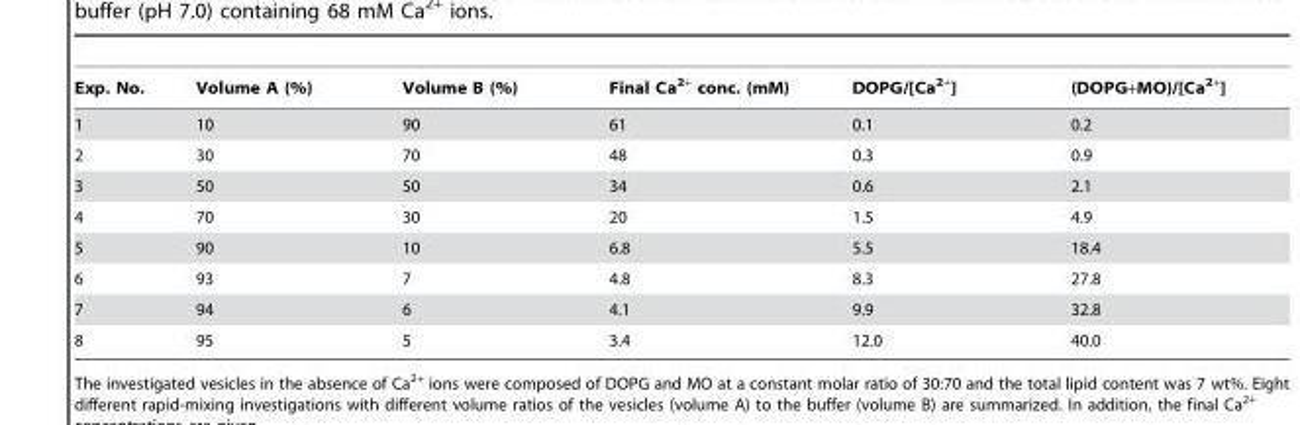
<table><thead><tr><td>Exp. No.</td><td>Volume A (%)</td><td>Volume B (%)</td><td>Final Ca<sup>2+</sup> conc. (mM)</td><td>DOPG/[Ca<sup>2+</sup>]</td><td>(DOPG+MO)/[Ca<sup>2+</sup>]</td></tr></thead><tbody><tr><td>1</td><td>10</td><td>90</td><td>61</td><td>0.1</td><td>0.2</td></tr><tr><td>2</td><td>30</td><td>70</td><td>48</td><td>0.3</td><td>0.9</td></tr><tr><td>3</td><td>50</td><td>50</td><td>34</td><td>0.6</td><td>2.1</td></tr><tr><td>4</td><td>70</td><td>30</td><td>20</td><td>1.5</td><td>4.9</td></tr><tr><td>5</td><td>90</td><td>10</td><td>6.8</td><td>5.5</td><td>18.4</td></tr><tr><td>6</td><td>93</td><td>7</td><td>4.8</td><td>8.3</td><td>27.8</td></tr><tr><td>7</td><td>94</td><td>6</td><td>4.1</td><td>9.9</td><td>32.8</td></tr><tr><td>8</td><td>95</td><td>5</td><td>3.4</td><td>12.0</td><td>40.0</td></tr></tbody></table>